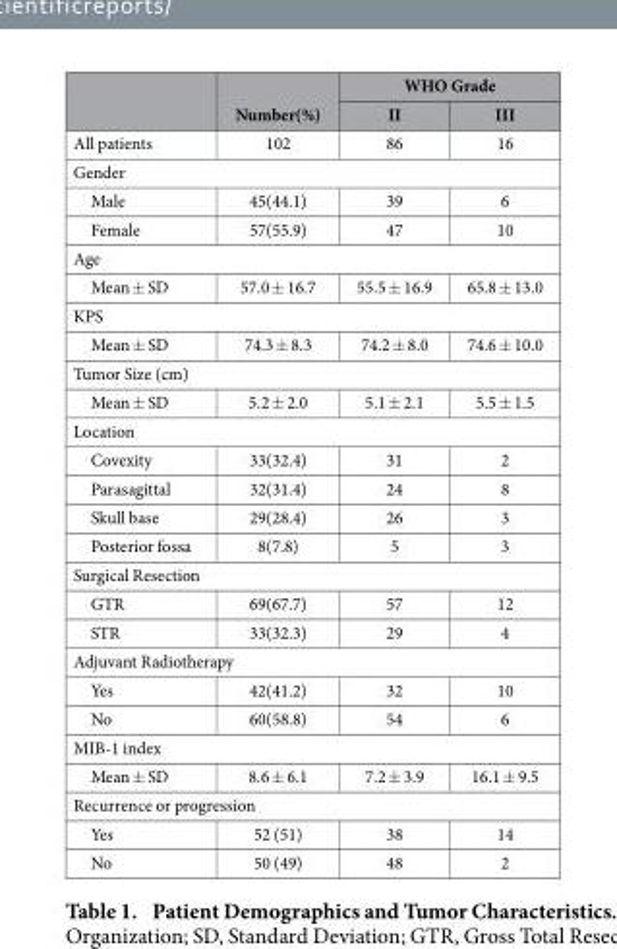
<table><thead><tr><td rowspan="2"></td><td rowspan="2">Number(%)</td><td colspan="2">WHO Grade</td></tr><tr><td>II</td><td>III</td></tr></thead><tbody><tr><td>All patients</td><td>102</td><td>86</td><td>16</td></tr><tr><td colspan="4">Gender</td></tr><tr><td>Male</td><td>45(44.1)</td><td>39</td><td>6</td></tr><tr><td>Female</td><td>57(55.9)</td><td>47</td><td>10</td></tr><tr><td colspan="4">Age</td></tr><tr><td>Mean ± SD</td><td>57.0 ± 16.7</td><td>55.5 ± 16.9</td><td>65.8 ± 13.0</td></tr><tr><td colspan="4">KPS</td></tr><tr><td>Mean ± SD</td><td>74.3 ± 8.3</td><td>74.2 ± 8.0</td><td>74.6 ± 10.0</td></tr><tr><td colspan="4">Tumor Size (cm)</td></tr><tr><td>Mean ± SD</td><td>5.2 ± 2.0</td><td>5.1 ± 2.1</td><td>5.5 ± 1.5</td></tr><tr><td colspan="4">Location</td></tr><tr><td>Covexity</td><td>33(32.4)</td><td>31</td><td>2</td></tr><tr><td>Parasagittal</td><td>32(31.4)</td><td>24</td><td>8</td></tr><tr><td>Skull base</td><td>29(28.4)</td><td>26</td><td>3</td></tr><tr><td>Posterior fossa</td><td>8(7.8)</td><td>5</td><td>3</td></tr><tr><td colspan="4">Surgical Resection</td></tr><tr><td>GTR</td><td>69(67.7)</td><td>57</td><td>12</td></tr><tr><td>STR</td><td>33(32.3)</td><td>29</td><td>4</td></tr><tr><td colspan="4">Adjuvant Radiotherapy</td></tr><tr><td>Yes</td><td>42(41.2)</td><td>32</td><td>10</td></tr><tr><td>No</td><td>60(58.8)</td><td>54</td><td>6</td></tr><tr><td colspan="4">MIB-1 index</td></tr><tr><td>Mean ± SD</td><td>8.6 ± 6.1</td><td>7.2 ± 3.9</td><td>16.1 ± 9.5</td></tr><tr><td colspan="4">Recurrence or progression</td></tr><tr><td>Yes</td><td>52 (51)</td><td>38</td><td>14</td></tr><tr><td>No</td><td>50 (49)</td><td>48</td><td>2</td></tr></tbody></table>